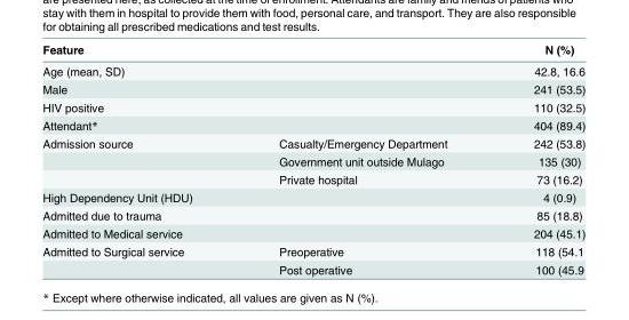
<table><thead><tr><td>Feature</td><td></td><td>N (%)</td></tr></thead><tbody><tr><td>Age (mean, SD)</td><td></td><td>42.8, 16.6</td></tr><tr><td>Male</td><td></td><td>241 (53.5)</td></tr><tr><td>HIV positive</td><td></td><td>110 (32.5)</td></tr><tr><td>Attendant*</td><td></td><td>404 (89.4)</td></tr><tr><td rowspan="3">Admission source</td><td>Casualty/Emergency Department</td><td>242 (53.8)</td></tr><tr><td>Government unit outside Mulago</td><td>135 (30)</td></tr><tr><td>Private hospital</td><td>73 (16.2)</td></tr><tr><td>High Dependency Unit (HDU)</td><td></td><td>4 (0.9)</td></tr><tr><td>Admitted due to trauma</td><td></td><td>85 (18.8)</td></tr><tr><td>Admitted to Medical service</td><td></td><td>204 (45.1)</td></tr><tr><td rowspan="2">Admitted to Surgical service</td><td>Preoperative</td><td>118 (54.1</td></tr><tr><td>Post operative</td><td>100 (45.9</td></tr></tbody></table>